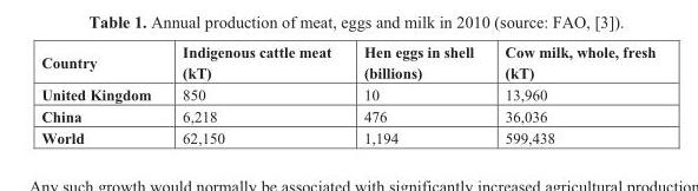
<table><thead><tr><td>Country</td><td>Indigenous cattle meat (kT)</td><td>Hen eggs in shell (billions)</td><td>Cow milk, whole, fresh (kT)</td></tr></thead><tbody><tr><td>United Kingdom</td><td>850</td><td>10</td><td>13,960</td></tr><tr><td>China</td><td>6,218</td><td>476</td><td>36,036</td></tr><tr><td>World</td><td>62,150</td><td>1,194</td><td>599,438</td></tr></tbody></table>